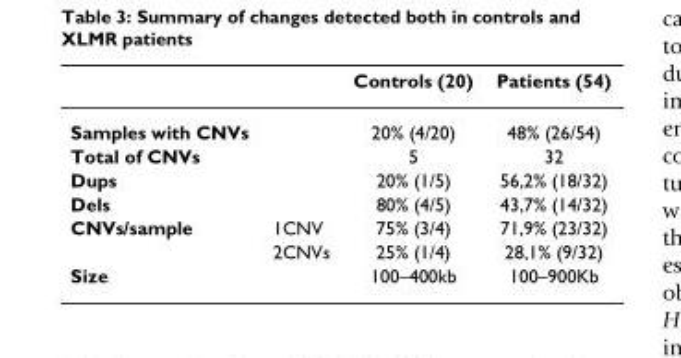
<table><thead><tr><td></td><td></td><td>Controls (20)</td><td>Patients (54)</td></tr></thead><tbody><tr><td>Samples with CNVs</td><td></td><td>20% (4/20)</td><td>48% (26/54)</td></tr><tr><td>Total of CNVs</td><td></td><td>5</td><td>32</td></tr><tr><td>Dups</td><td></td><td>20% (1/5)</td><td>56,2% (18/32)</td></tr><tr><td>Dels</td><td></td><td>80% (4/5)</td><td>43,7% (14/32)</td></tr><tr><td rowspan="2">CNVs/sample</td><td>1CNV</td><td>75% (3/4)</td><td>71,9% (23/32)</td></tr><tr><td>2CNVs</td><td>25% (1/4)</td><td>28,1% (9/32)</td></tr><tr><td>Size</td><td></td><td>100–400kb</td><td>100–900Kb</td></tr></tbody></table>